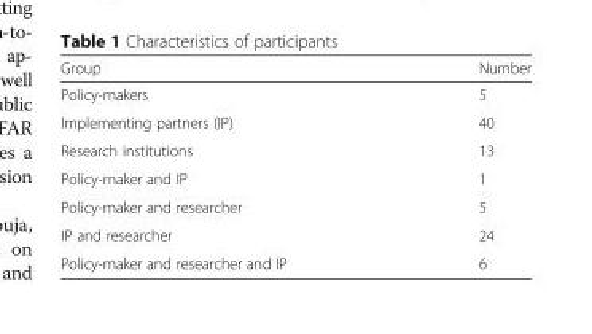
<table><thead><tr><td>Group</td><td>Number</td></tr></thead><tbody><tr><td>Policy-makers</td><td>5</td></tr><tr><td>Implementing partners (IP)</td><td>40</td></tr><tr><td>Research institutions</td><td>13</td></tr><tr><td>Policy-maker and IP</td><td>1</td></tr><tr><td>Policy-maker and researcher</td><td>5</td></tr><tr><td>IP and researcher</td><td>24</td></tr><tr><td>Policy-maker and researcher and IP</td><td>6</td></tr></tbody></table>